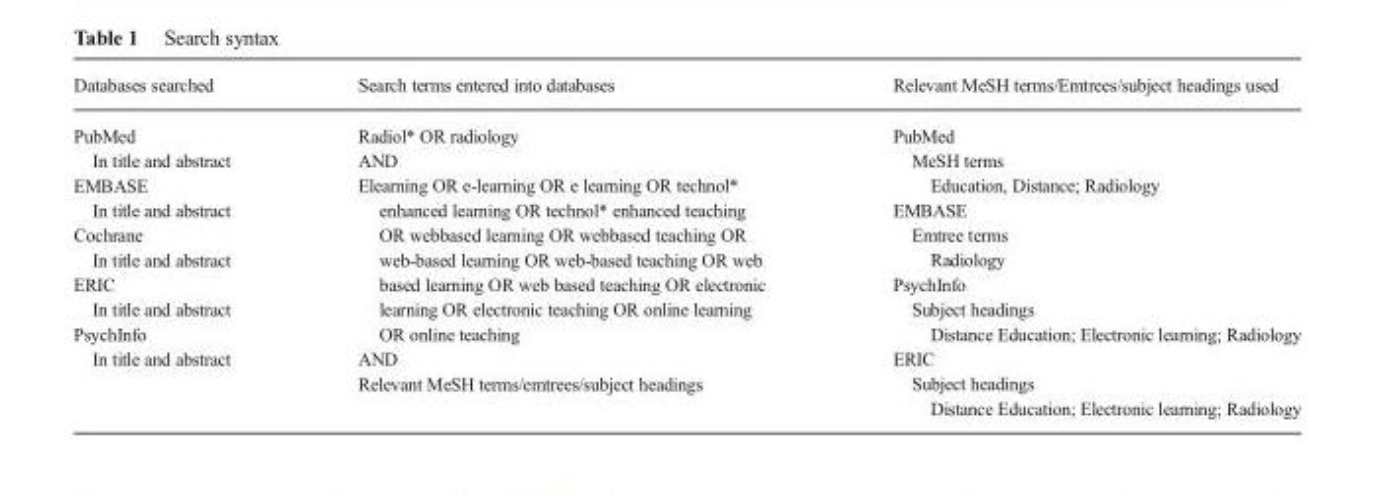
<table><thead><tr><td>Databases searched</td><td>Search terms entered into databases</td><td>Relevant MeSH terms/Emtrees/subject headings used</td></tr></thead><tbody><tr><td>PubMed In title and abstract EMBASE In title and abstract Cochrane In title and abstract ERIC In title and abstract PsychInfo In title and abstract</td><td>Radiol* OR radiology AND Elearning OR e-learning OR e learning OR technol* enhanced learning OR technol* enhanced teaching OR webbased learning OR webbased teaching OR web-based learning OR web-based teaching OR web based learning OR web based teaching OR electronic learning OR electronic teaching OR online learning OR online teaching AND Relevant MeSH terms/emtrees/subject headings</td><td>PubMed MeSH terms Education, Distance; Radiology EMBASE Emtree terms Radiology PsychInfo Subject headings Distance Education; Electronic learning; Radiology ERIC Subject headings Distance Education; Electronic learning; Radiology</td></tr></tbody></table>